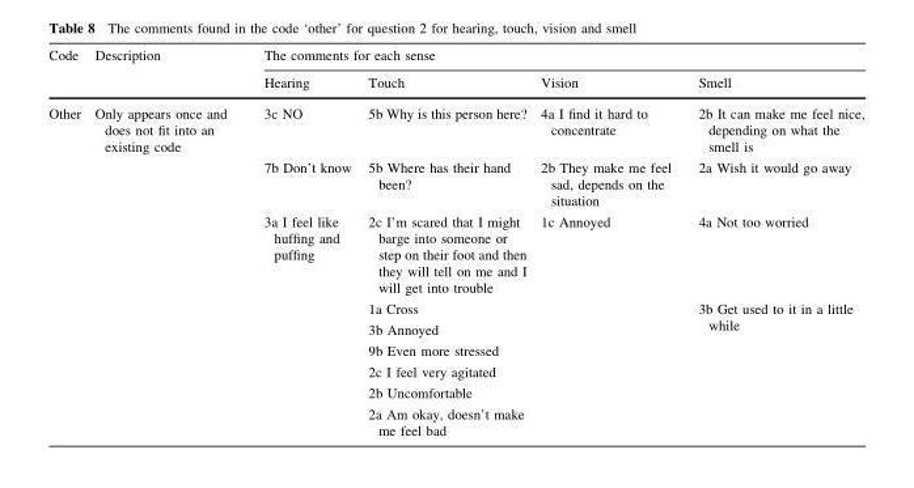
<table><thead><tr><td rowspan="2">Code</td><td rowspan="2">Description</td><td colspan="4">The comments for each sense</td></tr><tr><td>Hearing</td><td>Touch</td><td>Vision</td><td>Smell</td></tr></thead><tbody><tr><td rowspan="9">Other</td><td rowspan="9">Only appears once and does not fit into an existing code</td><td>3c NO</td><td>5b Why is this person here?</td><td>4a I find it hard to concentrate</td><td>2b It can make me feel nice, depending on what the smell is</td></tr><tr><td>7b Don’t know</td><td>5b Where has their hand been?</td><td>2b They make me feel sad, depends on the situation</td><td>2a Wish it would go away</td></tr><tr><td rowspan="7">3a I feel like huffing and puffing</td><td>2c I’m scared that I might barge into someone or step on their foot and then they will tell on me and I will get into trouble</td><td rowspan="7">1c Annoyed</td><td>4a Not too worried</td></tr><tr><td>1a Cross</td><td rowspan="6">3b Get used to it in a little while</td></tr><tr><td>3b Annoyed</td></tr><tr><td>9b Even more stressed</td></tr><tr><td>2c I feel very agitated</td></tr><tr><td>2b Uncomfortable</td></tr><tr><td>2a Am okay, doesn’t make me feel bad</td></tr></tbody></table>